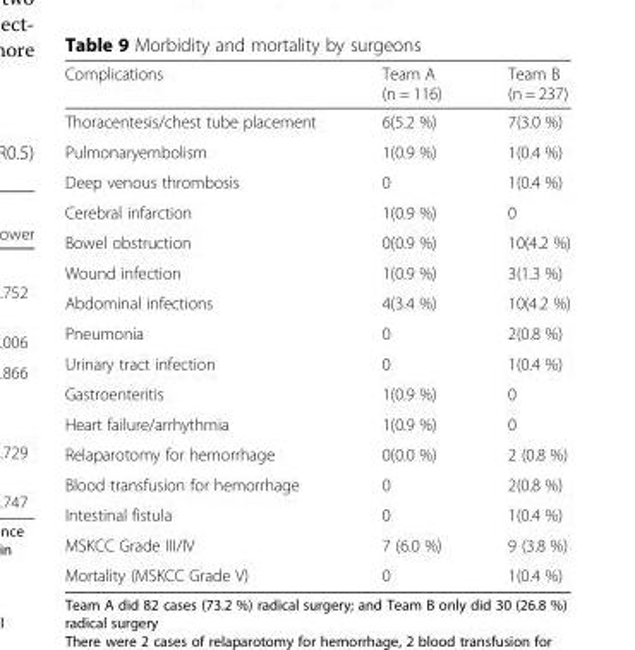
<table><thead><tr><td>Complications</td><td>Team A (n = 116)</td><td>Team B (n = 237)</td></tr></thead><tbody><tr><td>Thoracentesis/chest tube placement</td><td>6(5.2 %)</td><td>7(3.0 %)</td></tr><tr><td>Pulmonaryembolism</td><td>1(0.9 %)</td><td>1(0.4 %)</td></tr><tr><td>Deep venous thrombosis</td><td>0</td><td>1(0.4 %)</td></tr><tr><td>Cerebral infarction</td><td>1(0.9 %)</td><td>0</td></tr><tr><td>Bowel obstruction</td><td>0(0.9 %)</td><td>10(4.2 %)</td></tr><tr><td>Wound infection</td><td>1(0.9 %)</td><td>3(1.3 %)</td></tr><tr><td>Abdominal infections</td><td>4(3.4 %)</td><td>10(4.2 %)</td></tr><tr><td>Pneumonia</td><td>0</td><td>2(0.8 %)</td></tr><tr><td>Urinary tract infection</td><td>0</td><td>1(0.4 %)</td></tr><tr><td>Gastroenteritis</td><td>1(0.9 %)</td><td>0</td></tr><tr><td>Heart failure/arrhythmia</td><td>1(0.9 %)</td><td>0</td></tr><tr><td>Relaparotomy for hemorrhage</td><td>0(0.0 %)</td><td>2 (0.8 %)</td></tr><tr><td>Blood transfusion for hemorrhage</td><td>0</td><td>2(0.8 %)</td></tr><tr><td>Intestinal fistula</td><td>0</td><td>1(0.4 %)</td></tr><tr><td>MSKCC Grade III/IV</td><td>7 (6.0 %)</td><td>9 (3.8 %)</td></tr><tr><td>Mortality (MSKCC Grade V)</td><td>0</td><td>1(0.4 %)</td></tr></tbody></table>